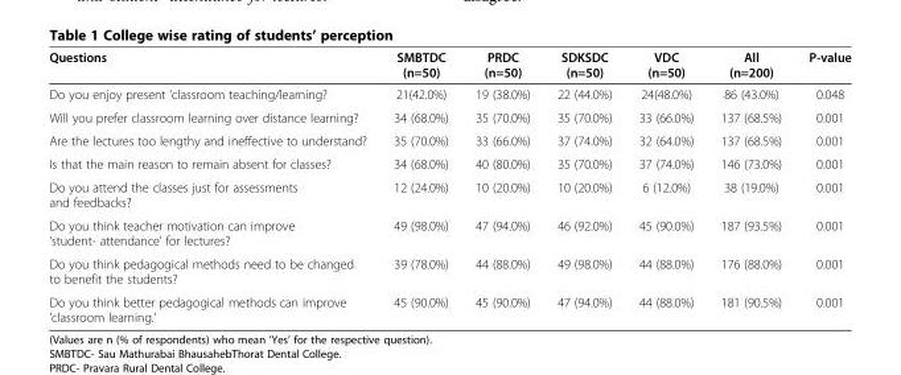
<table><thead><tr><td>Questions</td><td>SMBTDC (n=50)</td><td>PRDC (n=50)</td><td>SDKSDC (n=50)</td><td>VDC (n=50)</td><td>All (n=200)</td><td>P-value</td></tr></thead><tbody><tr><td>Do you enjoy present ‘classroom teaching/learning?</td><td>21(42.0%)</td><td>19 (38.0%)</td><td>22 (44.0%)</td><td>24(48.0%)</td><td>86 (43.0%)</td><td>0.048</td></tr><tr><td>Will you prefer classroom learning over distance learning?</td><td>34 (68.0%)</td><td>35 (70.0%)</td><td>35 (70.0%)</td><td>33 (66.0%)</td><td>137 (68.5%)</td><td>0.001</td></tr><tr><td>Are the lectures too lengthy and ineffective to understand?</td><td>35 (70.0%)</td><td>33 (66.0%)</td><td>37 (74.0%)</td><td>32 (64.0%)</td><td>137 (68.5%)</td><td>0.001</td></tr><tr><td>Is that the main reason to remain absent for classes?</td><td>34 (68.0%)</td><td>40 (80.0%)</td><td>35 (70.0%)</td><td>37 (74.0%)</td><td>146 (73.0%)</td><td>0.001</td></tr><tr><td>Do you attend the classes just for assessments and feedbacks?</td><td>12 (24.0%)</td><td>10 (20.0%)</td><td>10 (20.0%)</td><td>6 (12.0%)</td><td>38 (19.0%)</td><td>0.001</td></tr><tr><td>Do you think teacher motivation can improve ‘student- attendance’ for lectures?</td><td>49 (98.0%)</td><td>47 (94.0%)</td><td>46 (92.0%)</td><td>45 (90.0%)</td><td>187 (93.5%)</td><td>0.001</td></tr><tr><td>Do you think pedagogical methods need to be changed to benefit the students?</td><td>39 (78.0%)</td><td>44 (88.0%)</td><td>49 (98.0%)</td><td>44 (88.0%)</td><td>176 (88.0%)</td><td>0.001</td></tr><tr><td>Do you think better pedagogical methods can improve ‘classroom learning.’</td><td>45 (90.0%)</td><td>45 (90.0%)</td><td>47 (94.0%)</td><td>44 (88.0%)</td><td>181 (90.5%)</td><td>0.001</td></tr></tbody></table>